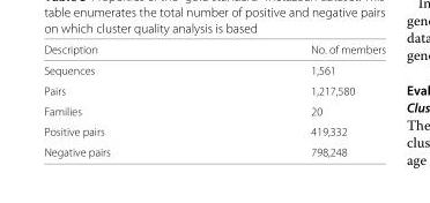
<table><thead><tr><td>Description</td><td>No. of members</td></tr></thead><tbody><tr><td>Sequences</td><td>1,561</td></tr><tr><td>Pairs</td><td>1,217,580</td></tr><tr><td>Families</td><td>20</td></tr><tr><td>Positive pairs</td><td>419,332</td></tr><tr><td>Negative pairs</td><td>798,248</td></tr></tbody></table>